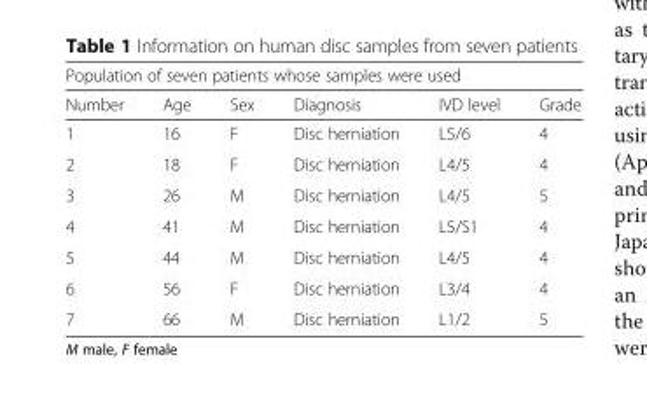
<table><thead><tr><td colspan="6">Population of seven patients whose samples were used</td></tr><tr><td>Number</td><td>Age</td><td>Sex</td><td>Diagnosis</td><td>IVD level</td><td>Grade</td></tr></thead><tbody><tr><td>1</td><td>16</td><td>F</td><td>Disc herniation</td><td>L5/6</td><td>4</td></tr><tr><td>2</td><td>18</td><td>F</td><td>Disc herniation</td><td>L4/5</td><td>4</td></tr><tr><td>3</td><td>26</td><td>M</td><td>Disc herniation</td><td>L4/5</td><td>5</td></tr><tr><td>4</td><td>41</td><td>M</td><td>Disc herniation</td><td>L5/S1</td><td>4</td></tr><tr><td>5</td><td>44</td><td>M</td><td>Disc herniation</td><td>L4/5</td><td>4</td></tr><tr><td>6</td><td>56</td><td>F</td><td>Disc herniation</td><td>L3/4</td><td>4</td></tr><tr><td>7</td><td>66</td><td>M</td><td>Disc herniation</td><td>L1/2</td><td>5</td></tr></tbody></table>